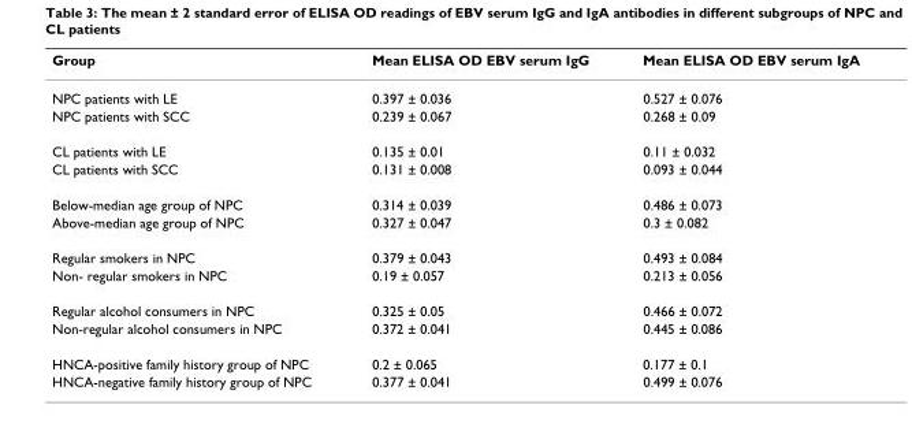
<table><thead><tr><td>Group</td><td>Mean ELISA OD EBV serum IgG</td><td>Mean ELISA OD EBV serum IgA</td></tr></thead><tbody><tr><td>NPC patients with LE</td><td>0.397 ± 0.036</td><td>0.527 ± 0.076</td></tr><tr><td>NPC patients with SCC</td><td>0.239 ± 0.067</td><td>0.268 ± 0.09</td></tr><tr><td>CL patients with LE</td><td>0.135 ± 0.01</td><td>0.11 ± 0.032</td></tr><tr><td>CL patients with SCC</td><td>0.131 ± 0.008</td><td>0.093 ± 0.044</td></tr><tr><td>Below-median age group of NPC</td><td>0.314 ± 0.039</td><td>0.486 ± 0.073</td></tr><tr><td>Above-median age group of NPC</td><td>0.327 ± 0.047</td><td>0.3 ± 0.082</td></tr><tr><td>Regular smokers in NPC</td><td>0.379 ± 0.043</td><td>0.493 ± 0.084</td></tr><tr><td>Non- regular smokers in NPC</td><td>0.19 ± 0.057</td><td>0.213 ± 0.056</td></tr><tr><td>Regular alcohol consumers in NPC</td><td>0.325 ± 0.05</td><td>0.466 ± 0.072</td></tr><tr><td>Non-regular alcohol consumers in NPC</td><td>0.372 ± 0.041</td><td>0.445 ± 0.086</td></tr><tr><td>HNCA-positive family history group of NPC</td><td>0.2 ± 0.065</td><td>0.177 ± 0.1</td></tr><tr><td>HNCA-negative family history group of NPC</td><td>0.377 ± 0.041</td><td>0.499 ± 0.076</td></tr></tbody></table>